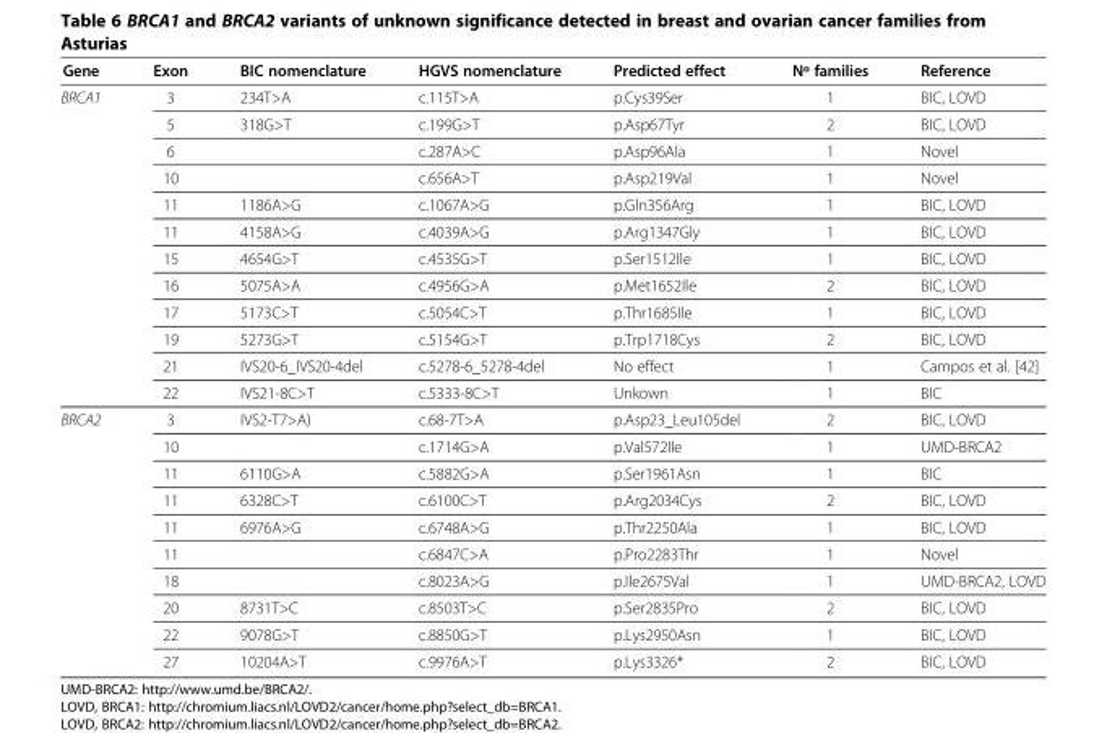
<table><thead><tr><td>Gene</td><td>Exon</td><td>BIC nomenclature</td><td>HGVS nomenclature</td><td>Predicted effect</td><td>Nº families</td><td>Reference</td></tr></thead><tbody><tr><td rowspan="12">BRCA1</td><td>3</td><td>234T&gt;A</td><td>c.115T&gt;A</td><td>p.Cys39Ser</td><td>1</td><td>BIC, LOVD</td></tr><tr><td>5</td><td>318G&gt;T</td><td>c.199G&gt;T</td><td>p.Asp67Tyr</td><td>2</td><td>BIC, LOVD</td></tr><tr><td>6</td><td></td><td>c.287A&gt;C</td><td>p.Asp96Ala</td><td>1</td><td>Novel</td></tr><tr><td>10</td><td></td><td>c.656A&gt;T</td><td>p.Asp219Val</td><td>1</td><td>Novel</td></tr><tr><td>11</td><td>1186A&gt;G</td><td>c.1067A&gt;G</td><td>p.Gln356Arg</td><td>1</td><td>BIC, LOVD</td></tr><tr><td>11</td><td>4158A&gt;G</td><td>c.4039A&gt;G</td><td>p.Arg1347Gly</td><td>1</td><td>BIC, LOVD</td></tr><tr><td>15</td><td>4654G&gt;T</td><td>c.4535G&gt;T</td><td>p.Ser1512Ile</td><td>1</td><td>BIC, LOVD</td></tr><tr><td>16</td><td>5075A&gt;A</td><td>c.4956G&gt;A</td><td>p.Met1652Ile</td><td>2</td><td>BIC, LOVD</td></tr><tr><td>17</td><td>5173C&gt;T</td><td>c.5054C&gt;T</td><td>p.Thr1685Ile</td><td>1</td><td>BIC, LOVD</td></tr><tr><td>19</td><td>5273G&gt;T</td><td>c.5154G&gt;T</td><td>p.Trp1718Cys</td><td>2</td><td>BIC, LOVD</td></tr><tr><td>21</td><td>IVS20-6_IVS20-4del</td><td>c.5278-6_5278-4del</td><td>No effect</td><td>1</td><td>Campos et al. [42]</td></tr><tr><td>22</td><td>IVS21-8C&gt;T</td><td>c.5333-8C&gt;T</td><td>Unkown</td><td>1</td><td>BIC</td></tr><tr><td rowspan="10">BRCA2</td><td>3</td><td>IVS2-T7&gt;A)</td><td>c.68-7T&gt;A</td><td>p.Asp23_Leu105del</td><td>2</td><td>BIC, LOVD</td></tr><tr><td>10</td><td></td><td>c.1714G&gt;A</td><td>p.Val572Ile</td><td>1</td><td>UMD-BRCA2</td></tr><tr><td>11</td><td>6110G&gt;A</td><td>c.5882G&gt;A</td><td>p.Ser1961Asn</td><td>1</td><td>BIC</td></tr><tr><td>11</td><td>6328C&gt;T</td><td>c.6100C&gt;T</td><td>p.Arg2034Cys</td><td>2</td><td>BIC, LOVD</td></tr><tr><td>11</td><td>6976A&gt;G</td><td>c.6748A&gt;G</td><td>p.Thr2250Ala</td><td>1</td><td>BIC, LOVD</td></tr><tr><td>11</td><td></td><td>c.6847C&gt;A</td><td>p.Pro2283Thr</td><td>1</td><td>Novel</td></tr><tr><td>18</td><td></td><td>c.8023A&gt;G</td><td>p.Ile2675Val</td><td>1</td><td>UMD-BRCA2, LOVD</td></tr><tr><td>20</td><td>8731T&gt;C</td><td>c.8503T&gt;C</td><td>p.Ser2835Pro</td><td>2</td><td>BIC, LOVD</td></tr><tr><td>22</td><td>9078G&gt;T</td><td>c.8850G&gt;T</td><td>p.Lys2950Asn</td><td>1</td><td>BIC, LOVD</td></tr><tr><td>27</td><td>10204A&gt;T</td><td>c.9976A&gt;T</td><td>p.Lys3326*</td><td>2</td><td>BIC, LOVD</td></tr></tbody></table>